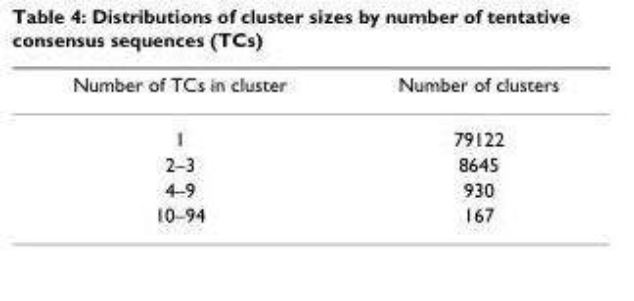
<table><thead><tr><td>Number of TCs in cluster</td><td>Number of clusters</td></tr></thead><tbody><tr><td>1</td><td>79122</td></tr><tr><td>2–3</td><td>8645</td></tr><tr><td>4–9</td><td>930</td></tr><tr><td>10–94</td><td>167</td></tr></tbody></table>